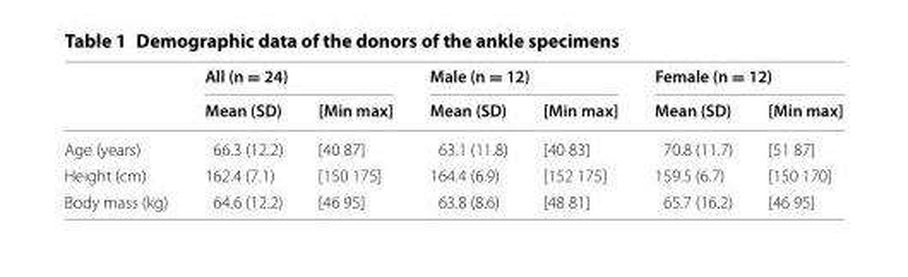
<table><thead><tr><td rowspan="2"></td><td colspan="2">All (n = 24)</td><td colspan="2">Male (n = 12)</td><td colspan="2">Female (n = 12)</td></tr><tr><td>Mean (SD)</td><td>[Min max]</td><td>Mean (SD)</td><td>[Min max]</td><td>Mean (SD)</td><td>[Min max]</td></tr></thead><tbody><tr><td>Age (years)</td><td>66.3 (12.2)</td><td>[40 87]</td><td>63.1 (11.8)</td><td>[40 83]</td><td>70.8 (11.7)</td><td>[51 87]</td></tr><tr><td>Height (cm)</td><td>162.4 (7.1)</td><td>[150 175]</td><td>164.4 (6.9)</td><td>[152 175]</td><td>159.5 (6.7)</td><td>[150 170]</td></tr><tr><td>Body mass (kg)</td><td>64.6 (12.2)</td><td>[46 95]</td><td>63.8 (8.6)</td><td>[48 81]</td><td>65.7 (16.2)</td><td>[46 95]</td></tr></tbody></table>